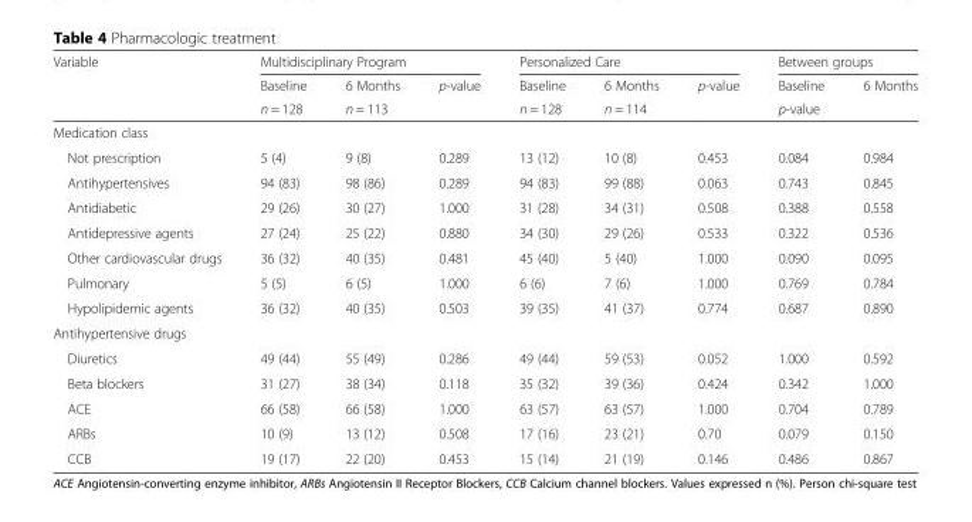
<table><thead><tr><td rowspan="3">Variable</td><td colspan="3">Multidisciplinary Program</td><td colspan="3">Personalized Care</td><td colspan="2">Between groups</td></tr><tr><td rowspan="2">Baseline n = 128</td><td rowspan="2">6 Months n = 113</td><td rowspan="2">p-value</td><td rowspan="2">Baseline n = 128</td><td rowspan="2">6 Months n = 114</td><td rowspan="2">p-value</td><td>Baseline</td><td>6 Months</td></tr><tr><td colspan="2">p-value</td></tr></thead><tbody><tr><td colspan="9">Medication class</td></tr><tr><td>Not prescription</td><td>5 (4)</td><td>9 (8)</td><td>0.289</td><td>13 (12)</td><td>10 (8)</td><td>0.453</td><td>0.084</td><td>0.984</td></tr><tr><td>Antihypertensives</td><td>94 (83)</td><td>98 (86)</td><td>0.289</td><td>94 (83)</td><td>99 (88)</td><td>0.063</td><td>0.743</td><td>0.845</td></tr><tr><td>Antidiabetic</td><td>29 (26)</td><td>30 (27)</td><td>1.000</td><td>31 (28)</td><td>34 (31)</td><td>0.508</td><td>0.388</td><td>0.558</td></tr><tr><td>Antidepressive agents</td><td>27 (24)</td><td>25 (22)</td><td>0.880</td><td>34 (30)</td><td>29 (26)</td><td>0.533</td><td>0.322</td><td>0.536</td></tr><tr><td>Other cardiovascular drugs</td><td>36 (32)</td><td>40 (35)</td><td>0.481</td><td>45 (40)</td><td>5 (40)</td><td>1.000</td><td>0.090</td><td>0.095</td></tr><tr><td>Pulmonary</td><td>5 (5)</td><td>6 (5)</td><td>1.000</td><td>6 (6)</td><td>7 (6)</td><td>1.000</td><td>0.769</td><td>0.784</td></tr><tr><td>Hypolipidemic agents</td><td>36 (32)</td><td>40 (35)</td><td>0.503</td><td>39 (35)</td><td>41 (37)</td><td>0.774</td><td>0.687</td><td>0.890</td></tr><tr><td colspan="9">Antihypertensive drugs</td></tr><tr><td>Diuretics</td><td>49 (44)</td><td>55 (49)</td><td>0.286</td><td>49 (44)</td><td>59 (53)</td><td>0.052</td><td>1.000</td><td>0.592</td></tr><tr><td>Beta blockers</td><td>31 (27)</td><td>38 (34)</td><td>0.118</td><td>35 (32)</td><td>39 (36)</td><td>0.424</td><td>0.342</td><td>1.000</td></tr><tr><td>ACE</td><td>66 (58)</td><td>66 (58)</td><td>1.000</td><td>63 (57)</td><td>63 (57)</td><td>1.000</td><td>0.704</td><td>0.789</td></tr><tr><td>ARBs</td><td>10 (9)</td><td>13 (12)</td><td>0.508</td><td>17 (16)</td><td>23 (21)</td><td>0.70</td><td>0.079</td><td>0.150</td></tr><tr><td>CCB</td><td>19 (17)</td><td>22 (20)</td><td>0.453</td><td>15 (14)</td><td>21 (19)</td><td>0.146</td><td>0.486</td><td>0.867</td></tr></tbody></table>